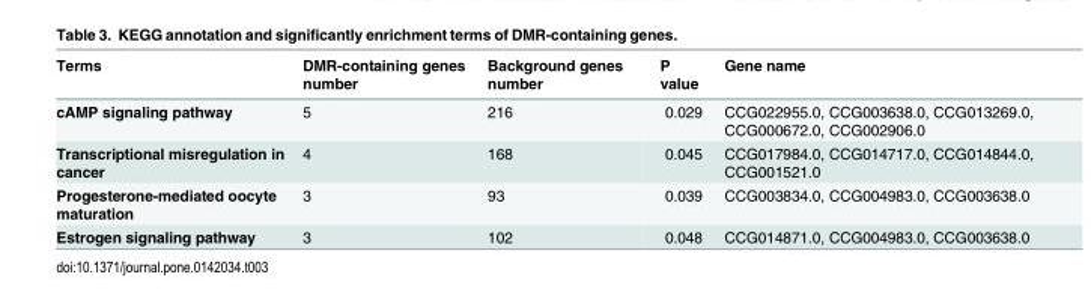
<table><thead><tr><td>Terms</td><td>DMR-containing genes number</td><td>Background genes number</td><td>P value</td><td>Gene name</td></tr></thead><tbody><tr><td>cAMP signaling pathway</td><td>5</td><td>216</td><td>0.029</td><td>CCG022955.0, CCG003638.0, CCG013269.0, CCG000672.0, CCG002906.0</td></tr><tr><td>Transcriptional misregulation in cancer</td><td>4</td><td>168</td><td>0.045</td><td>CCG017984.0, CCG014717.0, CCG014844.0, CCG001521.0</td></tr><tr><td>Progesterone-mediated oocyte maturation</td><td>3</td><td>93</td><td>0.039</td><td>CCG003834.0, CCG004983.0, CCG003638.0</td></tr><tr><td>Estrogen signaling pathway</td><td>3</td><td>102</td><td>0.048</td><td>CCG014871.0, CCG004983.0, CCG003638.0</td></tr></tbody></table>